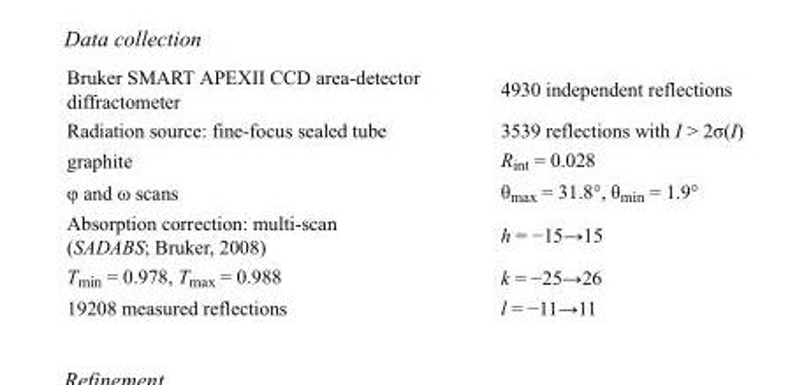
<table><tbody><tr><td>Bruker SMART APEXII CCD area-detector diffractometer</td><td>4930 independent reflections</td></tr><tr><td>Radiation source: fine-focus sealed tube</td><td>3539 reflections with I &gt; 2σ(I)</td></tr><tr><td>graphite</td><td>R<sub>int</sub> = 0.028</td></tr><tr><td>φ and ω scans</td><td>θ<sub>max</sub> = 31.8°, θ<sub>min</sub> = 1.9°</td></tr><tr><td>Absorption correction: multi-scan (SADABS; Bruker, 2008)</td><td>h = −15→15</td></tr><tr><td>T<sub>min</sub> = 0.978, T<sub>max</sub> = 0.988</td><td>k = −25→26</td></tr><tr><td>19208 measured reflections</td><td>l = −11→11</td></tr></tbody></table>